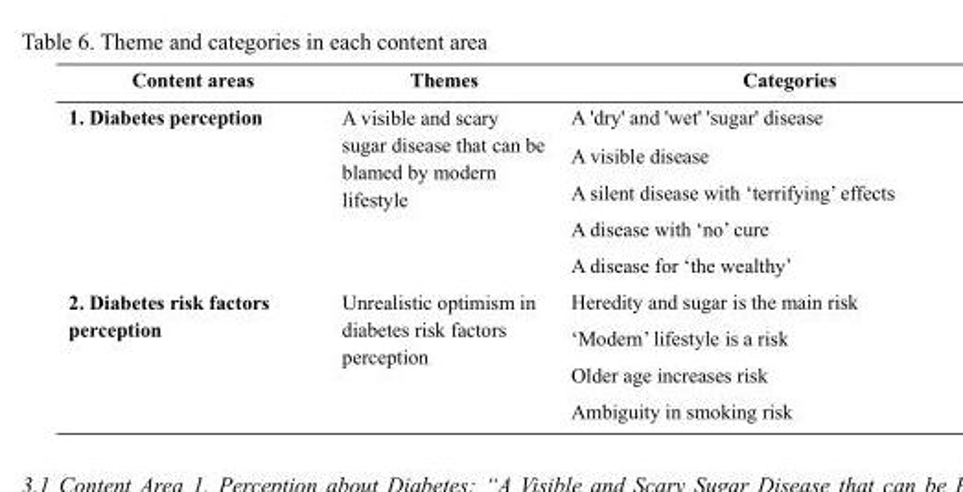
<table><thead><tr><td>Content areas</td><td>Themes</td><td>Categories</td></tr></thead><tbody><tr><td rowspan="5">1. Diabetes perception</td><td rowspan="5">A visible and scary sugar disease that can be blamed by modern lifestyle</td><td>A &#x27;dry&#x27; and &#x27;wet&#x27; &#x27;sugar&#x27; disease</td></tr><tr><td>A visible disease</td></tr><tr><td>A silent disease with ‘terrifying’ effects</td></tr><tr><td>A disease with ‘no’ cure</td></tr><tr><td>A disease for ‘the wealthy’</td></tr><tr><td rowspan="4">2. Diabetes risk factors perception</td><td rowspan="4">Unrealistic optimism in diabetes risk factors perception</td><td>Heredity and sugar is the main risk</td></tr><tr><td>‘Modern’ lifestyle is a risk</td></tr><tr><td>Older age increases risk</td></tr><tr><td>Ambiguity in smoking risk</td></tr></tbody></table>